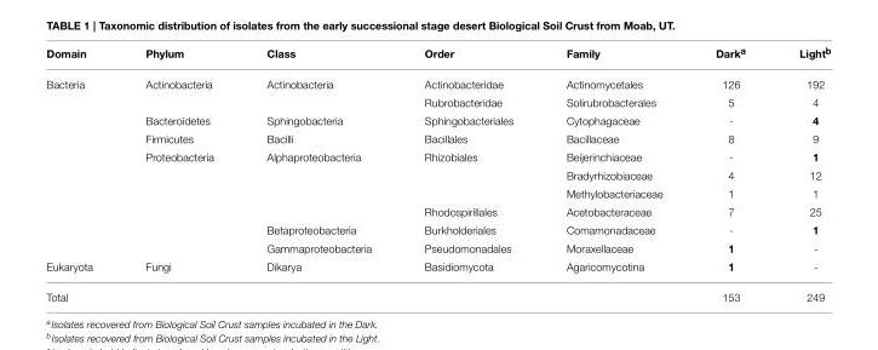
<table><thead><tr><td>Domain</td><td>Phylum</td><td>Class</td><td>Order</td><td>Family</td><td>Dark<sup>a</sup></td><td>Light<sup>b</sup></td></tr></thead><tbody><tr><td rowspan="10">Bacteria</td><td>Actinobacteria</td><td>Actinobacteria</td><td>Actinobacteridae</td><td>Actinomycetales</td><td>126</td><td>192</td></tr><tr><td></td><td></td><td>Rubrobacteridae</td><td>Solirubrobacterales</td><td>5</td><td>4</td></tr><tr><td>Bacteroidetes</td><td>Sphingobacteria</td><td>Sphingobacteriales</td><td>Cytophagaceae</td><td>-</td><td>4</td></tr><tr><td>Firmicutes</td><td>Bacilli</td><td>Bacillales</td><td>Bacillaceae</td><td>8</td><td>9</td></tr><tr><td>Proteobacteria</td><td>Alphaproteobacteria</td><td>Rhizobiales</td><td>Beijerinchiaceae</td><td>-</td><td>1</td></tr><tr><td></td><td></td><td></td><td>Bradyrhizobiaceae</td><td>4</td><td>12</td></tr><tr><td></td><td></td><td></td><td>Methylobacteriaceae</td><td>1</td><td>1</td></tr><tr><td></td><td></td><td>Rhodospirillales</td><td>Acetobacteraceae</td><td>7</td><td>25</td></tr><tr><td></td><td>Betaproteobacteria</td><td>Burkholderiales</td><td>Comamonadaceae</td><td>-</td><td>1</td></tr><tr><td></td><td>Gammaproteobacteria</td><td>Pseudomonadales</td><td>Moraxellaceae</td><td>1</td><td>-</td></tr><tr><td>Eukaryota</td><td>Fungi</td><td>Dikarya</td><td>Basidiomycota</td><td>Agaricomycotina</td><td>1</td><td>-</td></tr><tr><td>Total</td><td></td><td></td><td></td><td></td><td>153</td><td>249</td></tr></tbody></table>